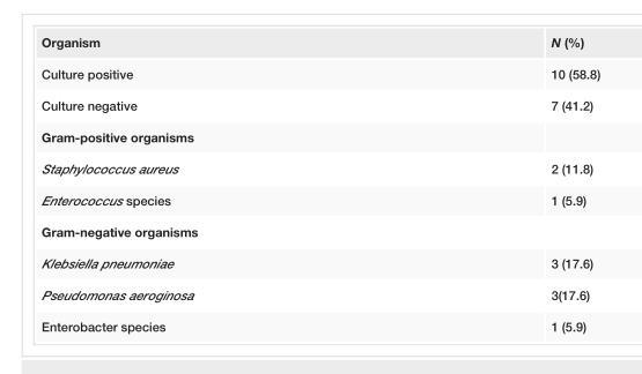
<table><tbody><tr><td>Organism</td><td>N (%)</td></tr><tr><td>Culture positive</td><td>10 (58.8)</td></tr><tr><td>Culture negative</td><td>7 (41.2)</td></tr><tr><td colspan="2">Gram-positive organisms</td></tr><tr><td>Staphylococcus aureus</td><td>2 (11.8)</td></tr><tr><td>Enterococcus species</td><td>1 (5.9)</td></tr><tr><td colspan="2">Gram-negative organisms</td></tr><tr><td>Klebsiella pneumoniae</td><td>3 (17.6)</td></tr><tr><td>Pseudomonas aeroginosa</td><td>3(17.6)</td></tr><tr><td>Enterobacter species</td><td>1 (5.9)</td></tr></tbody></table>